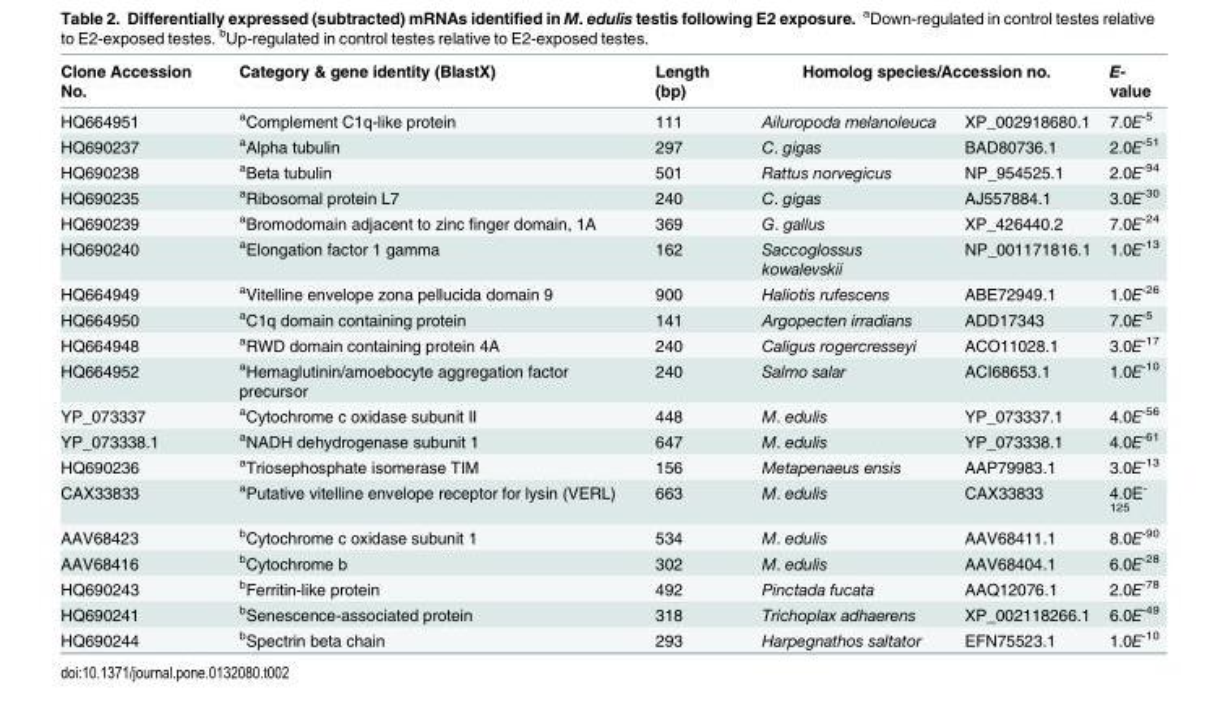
<table><thead><tr><td rowspan="2">Clone Accession No. HQ664951</td><td rowspan="2">Category &amp; gene identity (BlastX) <sup>a</sup>Complement C1q-like protein</td><td rowspan="2">Length (bp) 111</td><td colspan="2">Homolog species/Accession no.</td><td rowspan="2">E- value 7.0E<sup>-5</sup></td></tr><tr><td>Ailuropoda melanoleuca</td><td>XP_002918680.1</td></tr></thead><tbody><tr><td>HQ690237</td><td><sup>a</sup>Alpha tubulin</td><td>297</td><td>C. gigas</td><td>BAD80736.1</td><td>2.0E<sup>-51</sup></td></tr><tr><td>HQ690238</td><td><sup>a</sup>Beta tubulin</td><td>501</td><td>Rattus norvegicus</td><td>NP_954525.1</td><td>2.0E<sup>-94</sup></td></tr><tr><td>HQ690235</td><td><sup>a</sup>Ribosomal protein L7</td><td>240</td><td>C. gigas</td><td>AJ557884.1</td><td>3.0E<sup>-30</sup></td></tr><tr><td>HQ690239</td><td><sup>a</sup>Bromodomain adjacent to zinc finger domain, 1A</td><td>369</td><td>G. gallus</td><td>XP_426440.2</td><td>7.0E<sup>-24</sup></td></tr><tr><td>HQ690240</td><td><sup>a</sup>Elongation factor 1 gamma</td><td>162</td><td>Saccoglossus kowalevskii</td><td>NP_001171816.1</td><td>1.0E<sup>-13</sup></td></tr><tr><td>HQ664949</td><td><sup>a</sup>Vitelline envelope zona pellucida domain 9</td><td>900</td><td>Haliotis rufescens</td><td>ABE72949.1</td><td>1.0E<sup>-26</sup></td></tr><tr><td>HQ664950</td><td><sup>a</sup>C1q domain containing protein</td><td>141</td><td>Argopecten irradians</td><td>ADD17343</td><td>7.0E<sup>-5</sup></td></tr><tr><td>HQ664948</td><td><sup>a</sup>RWD domain containing protein 4A</td><td>240</td><td>Caligus rogercresseyi</td><td>ACO11028.1</td><td>3.0E<sup>-17</sup></td></tr><tr><td>HQ664952</td><td><sup>a</sup>Hemaglutinin/amoebocyte aggregation factor precursor</td><td>240</td><td>Salmo salar</td><td>ACI68653.1</td><td>1.0E<sup>-10</sup></td></tr><tr><td>YP_073337</td><td><sup>a</sup>Cytochrome c oxidase subunit II</td><td>448</td><td>M. edulis</td><td>YP_073337.1</td><td>4.0E<sup>-56</sup></td></tr><tr><td>YP_073338.1</td><td><sup>a</sup>NADH dehydrogenase subunit 1</td><td>647</td><td>M. edulis</td><td>YP_073338.1</td><td>4.0E<sup>-61</sup></td></tr><tr><td>HQ690236</td><td><sup>a</sup>Triosephosphate isomerase TIM</td><td>156</td><td>Metapenaeus ensis</td><td>AAP79983.1</td><td>3.0E<sup>-13</sup></td></tr><tr><td>CAX33833</td><td><sup>a</sup>Putative vitelline envelope receptor for lysin (VERL)</td><td>663</td><td>M. edulis</td><td>CAX33833</td><td>4.0E<sup>- 125</sup></td></tr><tr><td>AAV68423</td><td><sup>b</sup>Cytochrome c oxidase subunit 1</td><td>534</td><td>M. edulis</td><td>AAV68411.1</td><td>8.0E<sup>-90</sup></td></tr><tr><td>AAV68416</td><td><sup>b</sup>Cytochrome b</td><td>302</td><td>M. edulis</td><td>AAV68404.1</td><td>6.0E<sup>-28</sup></td></tr><tr><td>HQ690243</td><td><sup>b</sup>Ferritin-like protein</td><td>492</td><td>Pinctada fucata</td><td>AAQ12076.1</td><td>2.0E<sup>-78</sup></td></tr><tr><td>HQ690241</td><td><sup>b</sup>Senescence-associated protein</td><td>318</td><td>Trichoplax adhaerens</td><td>XP_002118266.1</td><td>6.0E<sup>-49</sup></td></tr><tr><td>HQ690244</td><td><sup>b</sup>Spectrin beta chain</td><td>293</td><td>Harpegnathos saltator</td><td>EFN75523.1</td><td>1.0E<sup>-10</sup></td></tr></tbody></table>